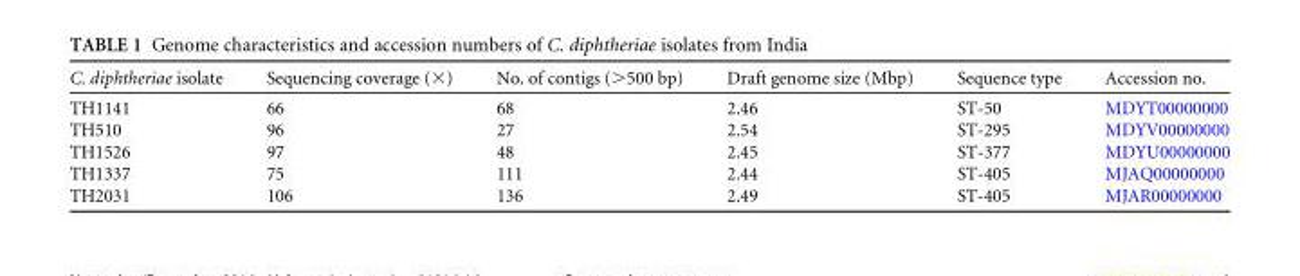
<table><thead><tr><td>C. diphtheriae isolate</td><td>Sequencing coverage (×)</td><td>No. of contigs (&gt;500 bp)</td><td>Draft genome size (Mbp)</td><td>Sequence type</td><td>Accession no.</td></tr></thead><tbody><tr><td>TH1141</td><td>66</td><td>68</td><td>2.46</td><td>ST-50</td><td>MDYT00000000</td></tr><tr><td>TH510</td><td>96</td><td>27</td><td>2.54</td><td>ST-295</td><td>MDYV00000000</td></tr><tr><td>TH1526</td><td>97</td><td>48</td><td>2.45</td><td>ST-377</td><td>MDYU00000000</td></tr><tr><td>TH1337</td><td>75</td><td>111</td><td>2.44</td><td>ST-405</td><td>MJAQ00000000</td></tr><tr><td>TH2031</td><td>106</td><td>136</td><td>2.49</td><td>ST-405</td><td>MJAR00000000</td></tr></tbody></table>